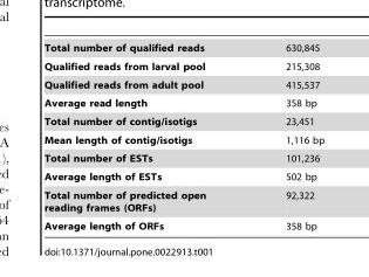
<table><tbody><tr><td>Total number of qualified reads</td><td>630,845</td></tr><tr><td>Qualified reads from larval pool</td><td>215,308</td></tr><tr><td>Qualified reads from adult pool</td><td>415,537</td></tr><tr><td>Average read length</td><td>358 bp</td></tr><tr><td>Total number of contig/isotigs</td><td>23,451</td></tr><tr><td>Mean length of contig/isotigs</td><td>1,116 bp</td></tr><tr><td>Total number of ESTs</td><td>101,236</td></tr><tr><td>Average length of ESTs</td><td>502 bp</td></tr><tr><td>Total number of predicted open reading frames (ORFs)</td><td>92,322</td></tr><tr><td>Average length of ORFs</td><td>358 bp</td></tr></tbody></table>